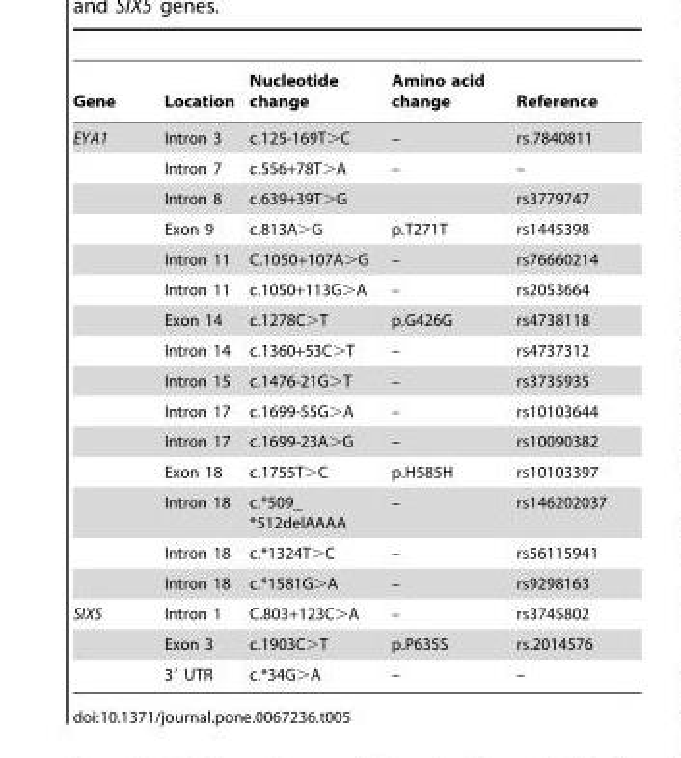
<table><thead><tr><td>Gene</td><td>Location</td><td>Nucleotide change</td><td>Amino acid change</td><td>Reference</td></tr></thead><tbody><tr><td rowspan="15">EYA1</td><td>Intron 3</td><td>c.125-169T&gt;C</td><td>–</td><td>rs.7840811</td></tr><tr><td>Intron 7</td><td>c.556+78T&gt;A</td><td>–</td><td>–</td></tr><tr><td>Intron 8</td><td>c.639+39T&gt;G</td><td></td><td>rs3779747</td></tr><tr><td>Exon 9</td><td>c.813A&gt;G</td><td>p.T271T</td><td>rs1445398</td></tr><tr><td>Intron 11</td><td>C.1050+107A&gt;G</td><td>–</td><td>rs76660214</td></tr><tr><td>Intron 11</td><td>c.1050+113G&gt;A</td><td>–</td><td>rs2053664</td></tr><tr><td>Exon 14</td><td>c.1278C&gt;T</td><td>p.G426G</td><td>rs4738118</td></tr><tr><td>Intron 14</td><td>c.1360+53C&gt;T</td><td>–</td><td>rs4737312</td></tr><tr><td>Intron 15</td><td>c.1476-21G&gt;T</td><td>–</td><td>rs3735935</td></tr><tr><td>Intron 17</td><td>c.1699-55G&gt;A</td><td>–</td><td>rs10103644</td></tr><tr><td>Intron 17</td><td>c.1699-23A&gt;G</td><td>–</td><td>rs10090382</td></tr><tr><td>Exon 18</td><td>c.1755T&gt;C</td><td>p.H585H</td><td>rs10103397</td></tr><tr><td>Intron 18</td><td>c.*509_ *512delAAAA</td><td>–</td><td>rs146202037</td></tr><tr><td>Intron 18</td><td>c.*1324T&gt;C</td><td>–</td><td>rs56115941</td></tr><tr><td>Intron 18</td><td>c.*1581G&gt;A</td><td>–</td><td>rs9298163</td></tr><tr><td rowspan="3">SIX5</td><td>Intron 1</td><td>C.803+123C&gt;A</td><td>–</td><td>rs3745802</td></tr><tr><td>Exon 3</td><td>c.1903C&gt;T</td><td>p.P635S</td><td>rs.2014576</td></tr><tr><td>3′ UTR</td><td>c.*34G&gt;A</td><td>–</td><td>–</td></tr></tbody></table>